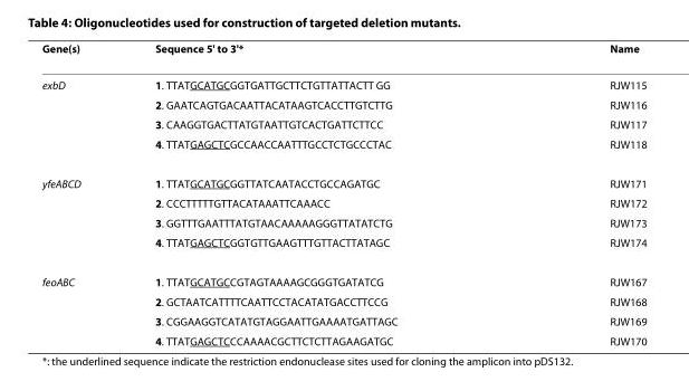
<table><thead><tr><td>Gene(s)</td><td>Sequence 5&#x27; to 3&#x27;*</td><td>Name</td></tr></thead><tbody><tr><td rowspan="4">exbD</td><td>1. TTATGCATGCGGTGATTGCTTCTGTTATTACTT GG</td><td>RJW115</td></tr><tr><td>2. GAATCAGTGACAATTACATAAGTCACCTTGTCTTG</td><td>RJW116</td></tr><tr><td>3. CAAGGTGACTTATGTAATTGTCACTGATTCTTCC</td><td>RJW117</td></tr><tr><td>4. TTATGAGCTCGCCAACCAATTTGCCTCTGCCCTAC</td><td>RJW118</td></tr><tr><td rowspan="4">yfeABCD</td><td>1. TTATGCATGCGGTTATCAATACCTGCCAGATGC</td><td>RJW171</td></tr><tr><td>2. CCCTTTTTGTTACATAAATTCAAACC</td><td>RJW172</td></tr><tr><td>3. GGTTTGAATTTATGTAACAAAAAGGGTTATATCTG</td><td>RJW173</td></tr><tr><td>4. TTATGAGCTCGGTGTTGAAGTTTGTTACTTATAGC</td><td>RJW174</td></tr><tr><td rowspan="4">feoABC</td><td>1. TTATGCATGCCGTAGTAAAAGCGGGTGATATCG</td><td>RJW167</td></tr><tr><td>2. GCTAATCATTTTCAATTCCTACATATGACCTTCCG</td><td>RJW168</td></tr><tr><td>3. CGGAAGGTCATATGTAGGAATTGAAAATGATTAGC</td><td>RJW169</td></tr><tr><td>4. TTATGAGCTCCCAAAACGCTTCTCTTAGAAGATGC</td><td>RJW170</td></tr></tbody></table>